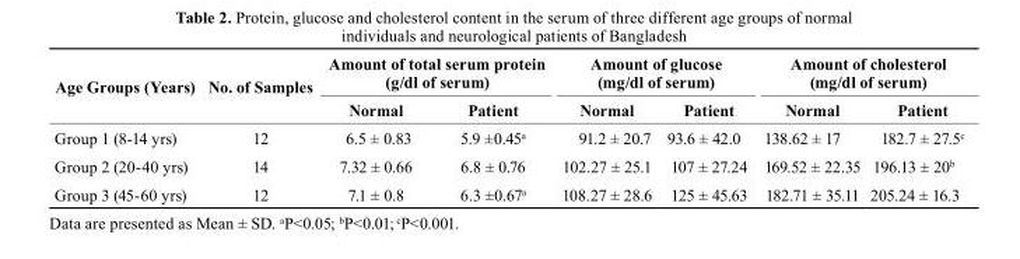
<table><thead><tr><td rowspan="2">Age Groups (Years)</td><td rowspan="2">no. of Samples</td><td colspan="2">Amount of total serum protein (g/dl of serum)</td><td colspan="2">Amount of glucose (mg/dl of serum)</td><td colspan="2">Amount of cholesterol (mg/dl of serum)</td></tr><tr><td>normal</td><td>Patient</td><td>normal</td><td>Patient</td><td>normal</td><td>Patient</td></tr></thead><tbody><tr><td>Group 1 (8-14 yrs)</td><td>12</td><td>6.5 ± 0.83</td><td>5.9 ±0.45<sup>a</sup></td><td>91.2 ± 20.7</td><td>93.6 ± 42.0</td><td>138.62 ± 17</td><td>182.7 ± 27.5<sup>c</sup></td></tr><tr><td>Group 2 (20-40 yrs)</td><td>14</td><td>7.32 ± 0.66</td><td>6.8 ± 0.76</td><td>102.27 ± 25.1</td><td>107 ± 27.24</td><td>169.52 ± 22.35</td><td>196.13 ± 20<sup>b</sup></td></tr><tr><td>Group 3 (45-60 yrs)</td><td>12</td><td>7.1 ± 0.8</td><td>6.3 ±0.67<sup>a</sup></td><td>108.27 ± 28.6</td><td>125 ± 45.63</td><td>182.71 ± 35.11</td><td>205.24 ± 16.3</td></tr></tbody></table>